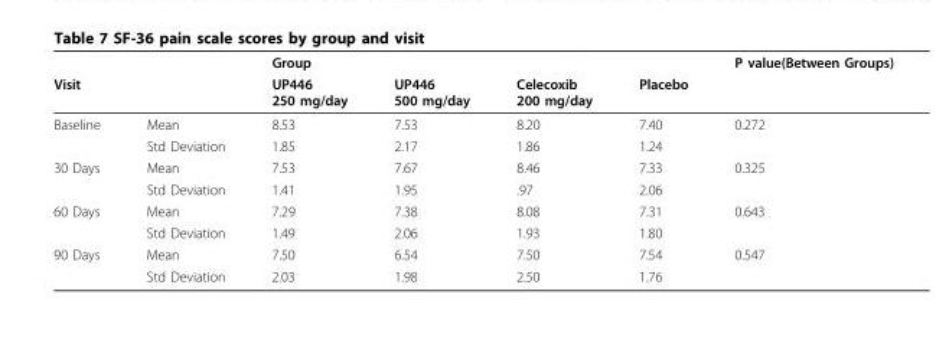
<table><thead><tr><td rowspan="2">Visit</td><td rowspan="2"></td><td colspan="4">Group</td><td rowspan="2">P value(Between Groups)</td></tr><tr><td>UP446 250 mg/day</td><td>UP446 500 mg/day</td><td>Celecoxib 200 mg/day</td><td>Placebo</td></tr></thead><tbody><tr><td rowspan="2">Baseline</td><td>Mean</td><td>8.53</td><td>7.53</td><td>8.20</td><td>7.40</td><td>0.272</td></tr><tr><td>Std Deviation</td><td>1.85</td><td>2.17</td><td>1.86</td><td>1.24</td><td></td></tr><tr><td rowspan="2">30 Days</td><td>Mean</td><td>7.53</td><td>7.67</td><td>8.46</td><td>7.33</td><td>0.325</td></tr><tr><td>Std Deviation</td><td>1.41</td><td>1.95</td><td>.97</td><td>2.06</td><td></td></tr><tr><td rowspan="2">60 Days</td><td>Mean</td><td>7.29</td><td>7.38</td><td>8.08</td><td>7.31</td><td>0.643</td></tr><tr><td>Std Deviation</td><td>1.49</td><td>2.06</td><td>1.93</td><td>1.80</td><td></td></tr><tr><td rowspan="2">90 Days</td><td>Mean</td><td>7.50</td><td>6.54</td><td>7.50</td><td>7.54</td><td>0.547</td></tr><tr><td>Std Deviation</td><td>2.03</td><td>1.98</td><td>2.50</td><td>1.76</td><td></td></tr></tbody></table>